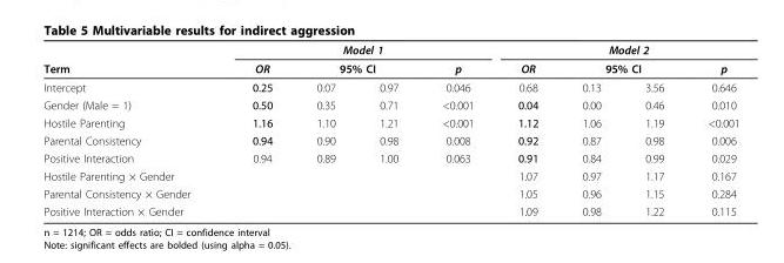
<table><thead><tr><td rowspan="3">Term Intercept</td><td colspan="4">Model 1</td><td colspan="4">Model 2</td></tr><tr><td rowspan="2">OR 0.25</td><td colspan="2">95% CI</td><td rowspan="2">p 0.046</td><td rowspan="2">OR 0.68</td><td colspan="2">95% CI</td><td rowspan="2">p 0.646</td></tr><tr><td>0.07</td><td>0.97</td><td>0.13</td><td>3.56</td></tr></thead><tbody><tr><td>Gender (Male = 1)</td><td>0.50</td><td>0.35</td><td>0.71</td><td>&lt;0.001</td><td>0.04</td><td>0.00</td><td>0.46</td><td>0.010</td></tr><tr><td>Hostile Parenting</td><td>1.16</td><td>1.10</td><td>1.21</td><td>&lt;0.001</td><td>1.12</td><td>1.06</td><td>1.19</td><td>&lt;0.001</td></tr><tr><td>Parental Consistency</td><td>0.94</td><td>0.90</td><td>0.98</td><td>0.008</td><td>0.92</td><td>0.87</td><td>0.98</td><td>0.006</td></tr><tr><td>Positive Interaction</td><td>0.94</td><td>0.89</td><td>1.00</td><td>0.063</td><td>0.91</td><td>0.84</td><td>0.99</td><td>0.029</td></tr><tr><td>Hostile Parenting × Gender</td><td></td><td></td><td></td><td></td><td>1.07</td><td>0.97</td><td>1.17</td><td>0.167</td></tr><tr><td>Parental Consistency × Gender</td><td></td><td></td><td></td><td></td><td>1.05</td><td>0.96</td><td>1.15</td><td>0.284</td></tr><tr><td>Positive Interaction × Gender</td><td></td><td></td><td></td><td></td><td>1.09</td><td>0.98</td><td>1.22</td><td>0.115</td></tr></tbody></table>